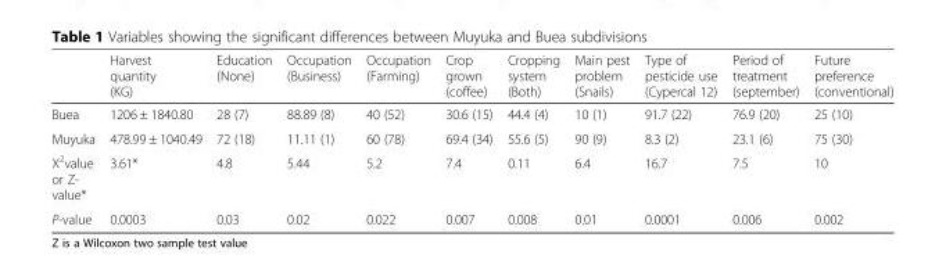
<table><thead><tr><td></td><td>Harvest quantity (KG)</td><td>Education (None)</td><td>Occupation (Business)</td><td>Occupation (Farming)</td><td>Crop grown (coffee)</td><td>Cropping system (Both)</td><td>Main pest problem (Snails)</td><td>Type of pesticide use (Cypercal 12)</td><td>Period of treatment (september)</td><td>Future preference (conventional)</td></tr></thead><tbody><tr><td>Buea</td><td>1206 ± 1840.80</td><td>28 (7)</td><td>88.89 (8)</td><td>40 (52)</td><td>30.6 (15)</td><td>44.4 (4)</td><td>10 (1)</td><td>91.7 (22)</td><td>76.9 (20)</td><td>25 (10)</td></tr><tr><td>Muyuka</td><td>478.99 ± 1040.49</td><td>72 (18)</td><td>11.11 (1)</td><td>60 (78)</td><td>69.4 (34)</td><td>55.6 (5)</td><td>90 (9)</td><td>8.3 (2)</td><td>23.1 (6)</td><td>75 (30)</td></tr><tr><td>X<sup>2</sup>value or Z- value*</td><td>3.61*</td><td>4.8</td><td>5.44</td><td>5.2</td><td>7.4</td><td>0.11</td><td>6.4</td><td>16.7</td><td>7.5</td><td>10</td></tr><tr><td>P-value</td><td>0.0003</td><td>0.03</td><td>0.02</td><td>0.022</td><td>0.007</td><td>0.008</td><td>0.01</td><td>0.0001</td><td>0.006</td><td>0.002</td></tr></tbody></table>